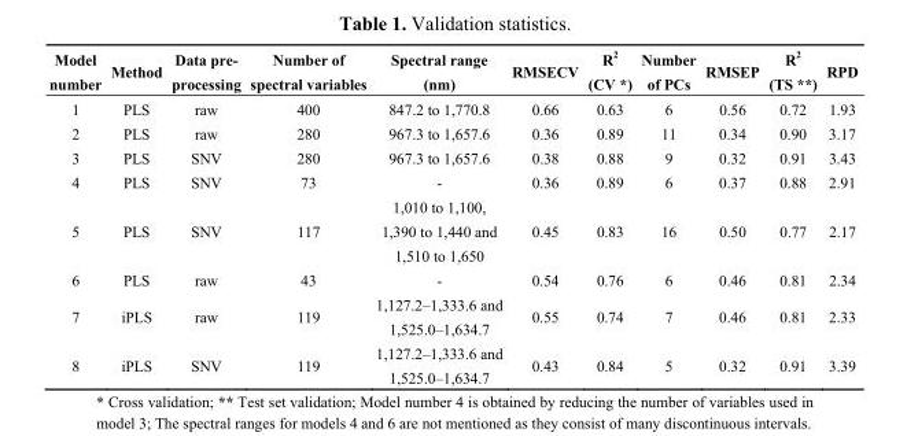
<table><thead><tr><td>Model number</td><td>Method</td><td>Data pre- processing</td><td>Number of spectral variables</td><td>Spectral range (nm)</td><td>RMSECV</td><td>R<sup>2</sup> (CV *)</td><td>Number of PCs</td><td>RMSEP</td><td>R<sup>2</sup> (TS **)</td><td>RPD</td></tr></thead><tbody><tr><td>1</td><td>PLS</td><td>raw</td><td>400</td><td>847.2 to 1,770.8</td><td>0.66</td><td>0.63</td><td>6</td><td>0.56</td><td>0.72</td><td>1.93</td></tr><tr><td>2</td><td>PLS</td><td>raw</td><td>280</td><td>967.3 to 1,657.6</td><td>0.36</td><td>0.89</td><td>11</td><td>0.34</td><td>0.90</td><td>3.17</td></tr><tr><td>3</td><td>PLS</td><td>SNV</td><td>280</td><td>967.3 to 1,657.6</td><td>0.38</td><td>0.88</td><td>9</td><td>0.32</td><td>0.91</td><td>3.43</td></tr><tr><td>4</td><td>PLS</td><td>SNV</td><td>73</td><td>-</td><td>0.36</td><td>0.89</td><td>6</td><td>0.37</td><td>0.88</td><td>2.91</td></tr><tr><td>5</td><td>PLS</td><td>SNV</td><td>117</td><td>1,010 to 1,100, 1,390 to 1,440 and 1,510 to 1,650</td><td>0.45</td><td>0.83</td><td>16</td><td>0.50</td><td>0.77</td><td>2.17</td></tr><tr><td>6</td><td>PLS</td><td>raw</td><td>43</td><td>-</td><td>0.54</td><td>0.76</td><td>6</td><td>0.46</td><td>0.81</td><td>2.34</td></tr><tr><td>7</td><td>iPLS</td><td>raw</td><td>119</td><td>1,127.2–1,333.6 and 1,525.0–1,634.7</td><td>0.55</td><td>0.74</td><td>7</td><td>0.46</td><td>0.81</td><td>2.33</td></tr><tr><td>8</td><td>iPLS</td><td>SNV</td><td>119</td><td>1,127.2–1,333.6 and 1,525.0–1,634.7</td><td>0.43</td><td>0.84</td><td>5</td><td>0.32</td><td>0.91</td><td>3.39</td></tr></tbody></table>